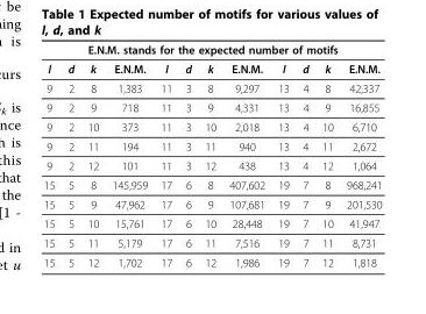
<table><thead><tr><td colspan="12">E.N.M. stands for the expected number of motifs</td></tr><tr><td>l</td><td>d</td><td>k</td><td>E.N.M.</td><td>l</td><td>d</td><td>k</td><td>E.N.M.</td><td>l</td><td>d</td><td>k</td><td>E.N.M.</td></tr></thead><tbody><tr><td>9</td><td>2</td><td>8</td><td>1,383</td><td>11</td><td>3</td><td>8</td><td>9,297</td><td>13</td><td>4</td><td>8</td><td>42,337</td></tr><tr><td>9</td><td>2</td><td>9</td><td>718</td><td>11</td><td>3</td><td>9</td><td>4,331</td><td>13</td><td>4</td><td>9</td><td>16,855</td></tr><tr><td>9</td><td>2</td><td>10</td><td>373</td><td>11</td><td>3</td><td>10</td><td>2,018</td><td>13</td><td>4</td><td>10</td><td>6,710</td></tr><tr><td>9</td><td>2</td><td>11</td><td>194</td><td>11</td><td>3</td><td>11</td><td>940</td><td>13</td><td>4</td><td>11</td><td>2,672</td></tr><tr><td>9</td><td>2</td><td>12</td><td>101</td><td>11</td><td>3</td><td>12</td><td>438</td><td>13</td><td>4</td><td>12</td><td>1,064</td></tr><tr><td>15</td><td>5</td><td>8</td><td>145,959</td><td>17</td><td>6</td><td>8</td><td>407,602</td><td>19</td><td>7</td><td>8</td><td>968,241</td></tr><tr><td>15</td><td>5</td><td>9</td><td>47,962</td><td>17</td><td>6</td><td>9</td><td>107,681</td><td>19</td><td>7</td><td>9</td><td>201,530</td></tr><tr><td>15</td><td>5</td><td>10</td><td>15,761</td><td>17</td><td>6</td><td>10</td><td>28,448</td><td>19</td><td>7</td><td>10</td><td>41,947</td></tr><tr><td>15</td><td>5</td><td>11</td><td>5,179</td><td>17</td><td>6</td><td>11</td><td>7,516</td><td>19</td><td>7</td><td>11</td><td>8,731</td></tr><tr><td>15</td><td>5</td><td>12</td><td>1,702</td><td>17</td><td>6</td><td>12</td><td>1,986</td><td>19</td><td>7</td><td>12</td><td>1,818</td></tr></tbody></table>